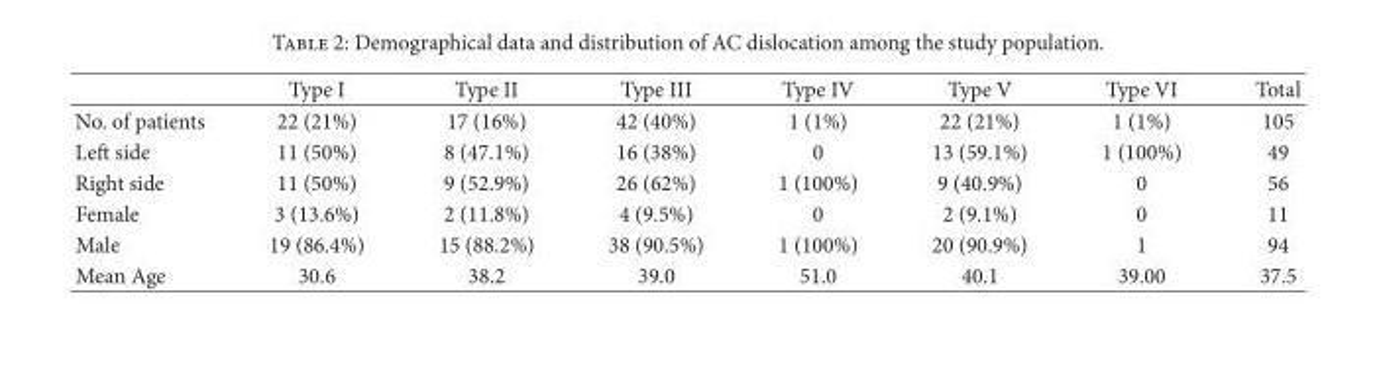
<table><thead><tr><td></td><td>Type I</td><td>Type II</td><td>Type III</td><td>Type IV</td><td>Type V</td><td>Type VI</td><td>Total</td></tr></thead><tbody><tr><td>No. of patients</td><td>22 (21%)</td><td>17 (16%)</td><td>42 (40%)</td><td>1 (1%)</td><td>22 (21%)</td><td>1 (1%)</td><td>105</td></tr><tr><td>Le side</td><td>11 (50%)</td><td>8 (47.1%)</td><td>16 (38%)</td><td>0</td><td>13 (59.1%)</td><td>1 (100%)</td><td>49</td></tr><tr><td>Right side</td><td>11 (50%)</td><td>9 (52.9%)</td><td>26 (62%)</td><td>1 (100%)</td><td>9 (40.9%)</td><td>0</td><td>56</td></tr><tr><td>Female</td><td>3 (13.6%)</td><td>2 (11.8%)</td><td>4 (9.5%)</td><td>0</td><td>2 (9.1%)</td><td>0</td><td>11</td></tr><tr><td>Male</td><td>19 (86.4%)</td><td>15 (88.2%)</td><td>38 (90.5%)</td><td>1 (100%)</td><td>20 (90.9%)</td><td>1</td><td>94</td></tr><tr><td>Mean Age</td><td>30.6</td><td>38.2</td><td>39.0</td><td>51.0</td><td>40.1</td><td>39.00</td><td>37.5</td></tr></tbody></table>